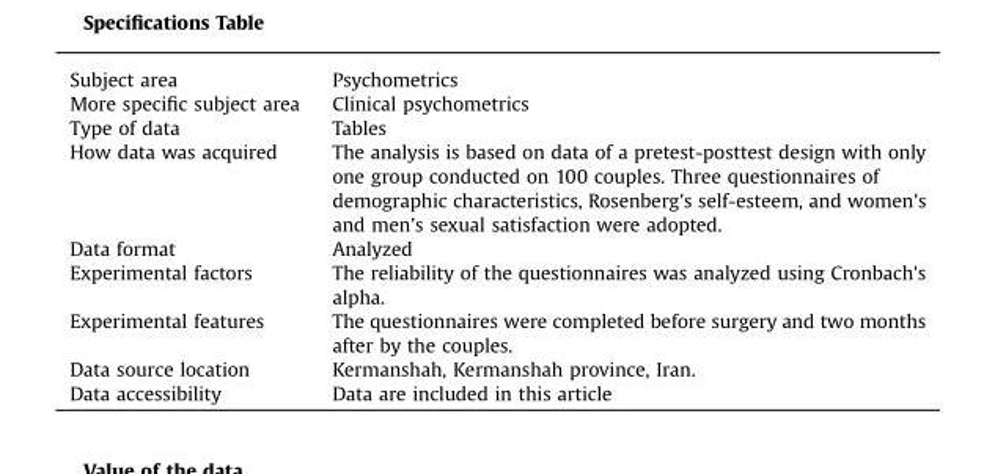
<table><tbody><tr><td>Subject area</td><td>Psychometrics</td></tr><tr><td>More specific subject area</td><td>Clinical psychometrics</td></tr><tr><td>Type of data</td><td>Tables</td></tr><tr><td>How data was acquired</td><td>The analysis is based on data of a pretest-posttest design with only one group conducted on 100 couples. Three questionnaires of demographic characteristics, Rosenberg&#x27;s self-esteem, and women&#x27;s and men&#x27;s sexual satisfaction were adopted.</td></tr><tr><td>Data format</td><td>Analyzed</td></tr><tr><td>Experimental factors</td><td>The reliability of the questionnaires was analyzed using Cronbach&#x27;s alpha.</td></tr><tr><td>Experimental features</td><td>The questionnaires were completed before surgery and two months after by the couples.</td></tr><tr><td>Data source location</td><td>Kermanshah, Kermanshah province, Iran.</td></tr><tr><td>Data accessibility</td><td>Data are included in this article</td></tr></tbody></table>